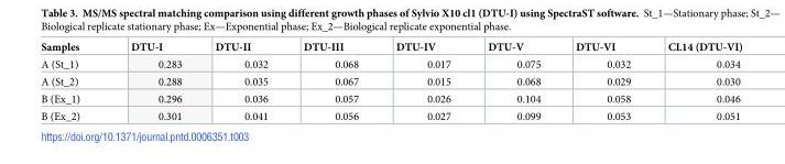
<table><thead><tr><td>Samples</td><td>DTU-I</td><td>DTU-II</td><td>DTU-III</td><td>DTU-IV</td><td>DTU-V</td><td>DTU-VI</td><td>CL14 (DTU-VI)</td></tr></thead><tbody><tr><td>A (St_1)</td><td>0.283</td><td>0.032</td><td>0.068</td><td>0.017</td><td>0.075</td><td>0.032</td><td>0.034</td></tr><tr><td>A (St_2)</td><td>0.288</td><td>0.035</td><td>0.067</td><td>0.015</td><td>0.068</td><td>0.029</td><td>0.030</td></tr><tr><td>B (Ex_1)</td><td>0.296</td><td>0.036</td><td>0.057</td><td>0.026</td><td>0.104</td><td>0.058</td><td>0.046</td></tr><tr><td>B (Ex_2)</td><td>0.301</td><td>0.041</td><td>0.056</td><td>0.027</td><td>0.099</td><td>0.053</td><td>0.051</td></tr></tbody></table>